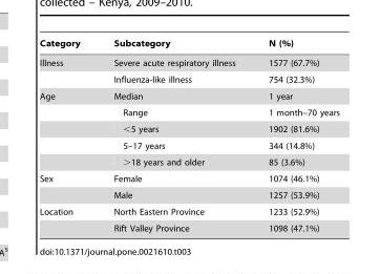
<table><thead><tr><td>Category</td><td>Subcategory</td><td>N (%)</td></tr></thead><tbody><tr><td rowspan="2">Illness</td><td>Severe acute respiratory illness</td><td>1577 (67.7%)</td></tr><tr><td>Influenza-like illness</td><td>754 (32.3%)</td></tr><tr><td rowspan="5">Age</td><td>Median</td><td>1 year</td></tr><tr><td>Range</td><td>1 month–70 years</td></tr><tr><td>&lt;5 years</td><td>1902 (81.6%)</td></tr><tr><td>5–17 years</td><td>344 (14.8%)</td></tr><tr><td>&gt;18 years and older</td><td>85 (3.6%)</td></tr><tr><td rowspan="2">Sex</td><td>Female</td><td>1074 (46.1%)</td></tr><tr><td>Male</td><td>1257 (53.9%)</td></tr><tr><td rowspan="2">Location</td><td>North Eastern Province</td><td>1233 (52.9%)</td></tr><tr><td>Rift Valley Province</td><td>1098 (47.1%)</td></tr></tbody></table>